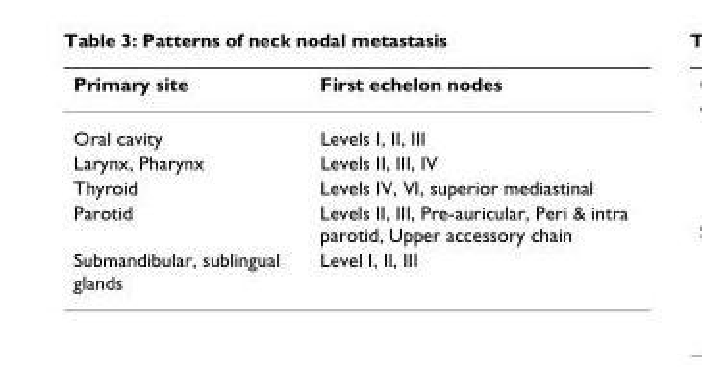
<table><thead><tr><td>Primary site</td><td>First echelon nodes</td></tr></thead><tbody><tr><td>Oral cavity</td><td>Levels I, II, III</td></tr><tr><td>Larynx, Pharynx</td><td>Levels II, III, IV</td></tr><tr><td>Thyroid</td><td>Levels IV, VI, superior mediastinal</td></tr><tr><td>Parotid</td><td>Levels II, III, Pre-auricular, Peri &amp; intra parotid, Upper accessory chain</td></tr><tr><td>Submandibular, sublingual glands</td><td>Level I, II, III</td></tr></tbody></table>